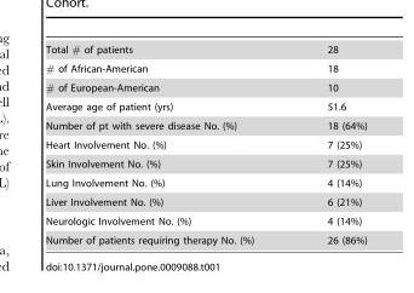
<table><tbody><tr><td>Total # of patients</td><td>28</td></tr><tr><td># of African-American</td><td>18</td></tr><tr><td># of European-American</td><td>10</td></tr><tr><td>Average age of patient (yrs)</td><td>51.6</td></tr><tr><td>Number of pt with severe disease No. (%)</td><td>18 (64%)</td></tr><tr><td>Heart Involvement No. (%)</td><td>7 (25%)</td></tr><tr><td>Skin Involvement No. (%)</td><td>7 (25%)</td></tr><tr><td>Lung Involvement No. (%)</td><td>4 (14%)</td></tr><tr><td>Liver Involvement No. (%)</td><td>6 (21%)</td></tr><tr><td>Neurologic Involvement No. (%)</td><td>4 (14%)</td></tr><tr><td>Number of patients requiring therapy No. (%)</td><td>26 (86%)</td></tr></tbody></table>